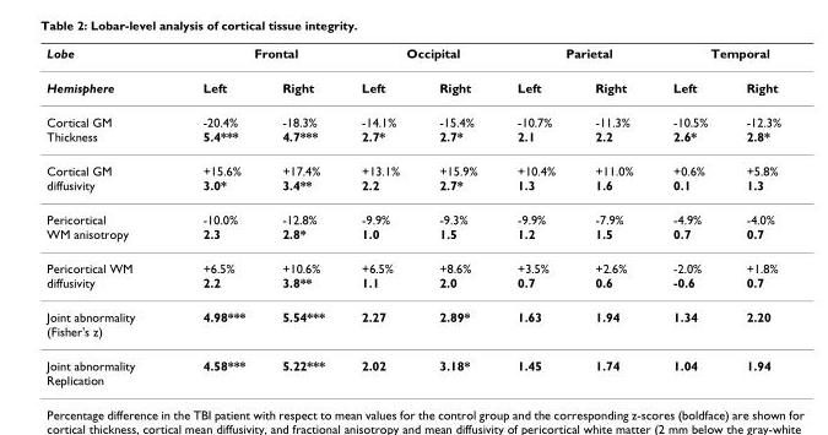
<table><thead><tr><td rowspan="2">Lobe Hemisphere</td><td colspan="2">Frontal</td><td colspan="2">Occipital</td><td colspan="2">Parietal</td><td colspan="2">Temporal</td></tr><tr><td>Left</td><td>Right</td><td>Left</td><td>Right</td><td>Left</td><td>Right</td><td>Left</td><td>Right</td></tr></thead><tbody><tr><td>Cortical GM Thickness</td><td>-20.4% 5.4***</td><td>-18.3% 4.7***</td><td>-14.1% 2.7*</td><td>-15.4% 2.7*</td><td>-10.7% 2.1</td><td>-11.3% 2.2</td><td>-10.5% 2.6*</td><td>-12.3% 2.8*</td></tr><tr><td>Cortical GM diffusivity</td><td>+15.6% 3.0*</td><td>+17.4% 3.4**</td><td>+13.1% 2.2</td><td>+15.9% 2.7*</td><td>+10.4% 1.3</td><td>+11.0% 1.6</td><td>+0.6% 0.1</td><td>+5.8% 1.3</td></tr><tr><td>Pericortical WM anisotropy</td><td>-10.0% 2.3</td><td>-12.8% 2.8*</td><td>-9.9% 1.0</td><td>-9.3% 1.5</td><td>-9.9% 1.2</td><td>-7.9% 1.5</td><td>-4.9% 0.7</td><td>-4.0% 0.7</td></tr><tr><td>Pericortical WM diffusivity</td><td>+6.5% 2.2</td><td>+10.6% 3.8**</td><td>+6.5% 1.1</td><td>+8.6% 2.0</td><td>+3.5% 0.7</td><td>+2.6% 0.6</td><td>-2.0% -0.6</td><td>+1.8% 0.7</td></tr><tr><td>Joint abnormality (Fisher&#x27;s z)</td><td>4.98***</td><td>5.54***</td><td>2.27</td><td>2.89*</td><td>1.63</td><td>1.94</td><td>1.34</td><td>2.20</td></tr><tr><td>Joint abnormality Replication</td><td>4.58***</td><td>5.22***</td><td>2.02</td><td>3.18*</td><td>1.45</td><td>1.74</td><td>1.04</td><td>1.94</td></tr></tbody></table>